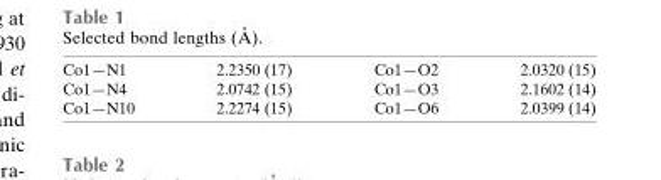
<table><tbody><tr><td>Co1—N1</td><td>2.2350 (17)</td><td>Co1—O2</td><td>2.0320 (15)</td></tr><tr><td>Co1—N4</td><td>2.0742 (15)</td><td>Co1—O3</td><td>2.1602 (14)</td></tr><tr><td>Co1—N10</td><td>2.2274 (15)</td><td>Co1—O6</td><td>2.0399 (14)</td></tr></tbody></table>